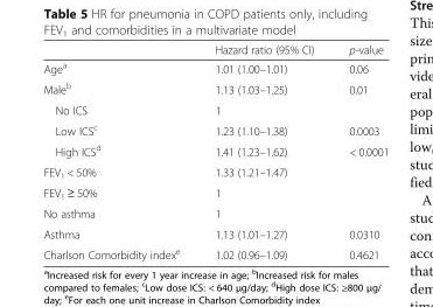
<table><thead><tr><td></td><td>Hazard ratio (95% CI)</td><td>p-value</td></tr></thead><tbody><tr><td>Age<sup>a</sup></td><td>1.01 (1.00–1.01)</td><td>0.06</td></tr><tr><td>Male<sup>b</sup></td><td>1.13 (1.03–1.25)</td><td>0.01</td></tr><tr><td>No ICS</td><td>1</td><td></td></tr><tr><td>Low ICS<sup>c</sup></td><td>1.23 (1.10–1.38)</td><td>0.0003</td></tr><tr><td>High ICS<sup>d</sup></td><td>1.41 (1.23–1.62)</td><td>&lt; 0.0001</td></tr><tr><td>FEV<sub>1</sub> &lt; 50%</td><td>1.33 (1.21–1.47)</td><td></td></tr><tr><td>FEV<sub>1</sub> ≥ 50%</td><td>1</td><td></td></tr><tr><td>No asthma</td><td>1</td><td></td></tr><tr><td>Asthma</td><td>1.13 (1.01–1.27)</td><td>0.0310</td></tr><tr><td>Charlson Comorbidity index<sup>e</sup></td><td>1.02 (0.96–1.09)</td><td>0.4621</td></tr></tbody></table>